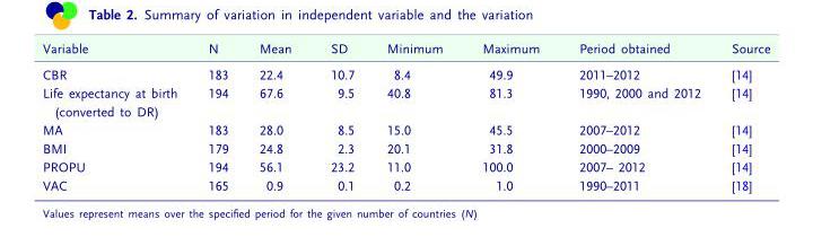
<table><thead><tr><td>Variable</td><td>N</td><td>Mean</td><td>SD</td><td>Minimum</td><td>Maximum</td><td>Period obtained</td><td>Source</td></tr></thead><tbody><tr><td>CBR</td><td>183</td><td>22.4</td><td>10.7</td><td>8.4</td><td>49.9</td><td>2011–2012</td><td>[14]</td></tr><tr><td>Life expectancy at birth (converted to DR)</td><td>194</td><td>67.6</td><td>9.5</td><td>40.8</td><td>81.3</td><td>1990, 2000 and 2012</td><td>[14]</td></tr><tr><td>MA</td><td>183</td><td>28.0</td><td>8.5</td><td>15.0</td><td>45.5</td><td>2007–2012</td><td>[14]</td></tr><tr><td>BMI</td><td>179</td><td>24.8</td><td>2.3</td><td>20.1</td><td>31.8</td><td>2000–2009</td><td>[14]</td></tr><tr><td>PROPU</td><td>194</td><td>56.1</td><td>23.2</td><td>11.0</td><td>100.0</td><td>2007– 2012</td><td>[14]</td></tr><tr><td>VAC</td><td>165</td><td>0.9</td><td>0.1</td><td>0.2</td><td>1.0</td><td>1990–2011</td><td>[18]</td></tr></tbody></table>